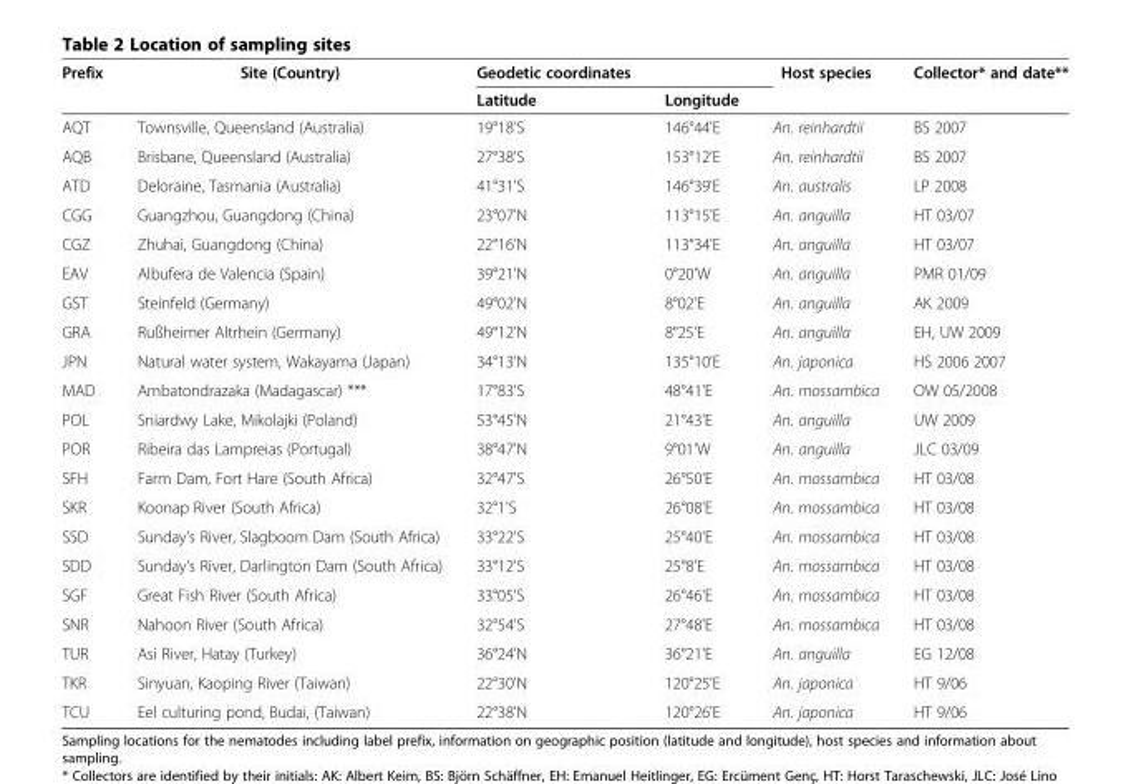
<table><thead><tr><td>Prefix</td><td>Site (Country)</td><td>Geodetic coordinates</td><td></td><td>Host species</td><td>Collector* and date**</td></tr></thead><tbody><tr><td></td><td></td><td>Latitude</td><td>Longitude</td><td></td><td></td></tr><tr><td>AQT</td><td>Townsville, Queensland (Australia)</td><td>19°18&#x27;S</td><td>146°44&#x27;E</td><td>An. reinhardtii</td><td>BS 2007</td></tr><tr><td>AQB</td><td>Brisbane, Queensland (Australia)</td><td>27°38&#x27;S</td><td>153°12&#x27;E</td><td>An. reinhardtii</td><td>BS 2007</td></tr><tr><td>ATD</td><td>Deloraine, Tasmania (Australia)</td><td>41°31&#x27;S</td><td>146°39&#x27;E</td><td>An. australis</td><td>LP 2008</td></tr><tr><td>CGG</td><td>Guangzhou, Guangdong (China)</td><td>23°07&#x27;N</td><td>113°15&#x27;E</td><td>An. anguilla</td><td>HT 03/07</td></tr><tr><td>CGZ</td><td>Zhuhai, Guangdong (China)</td><td>22°16&#x27;N</td><td>113°34&#x27;E</td><td>An. anguilla</td><td>HT 03/07</td></tr><tr><td>EAV</td><td>Albufera de Valencia (Spain)</td><td>39°21&#x27;N</td><td>0°20&#x27;W</td><td>An. anguilla</td><td>PMR 01/09</td></tr><tr><td>GST</td><td>Steinfeld (Germany)</td><td>49°02&#x27;N</td><td>8°02&#x27;E</td><td>An. anguilla</td><td>AK 2009</td></tr><tr><td>GRA</td><td>Rußheimer Altrhein (Germany)</td><td>49°12&#x27;N</td><td>8°25&#x27;E</td><td>An. anguilla</td><td>EH, UW 2009</td></tr><tr><td>JPN</td><td>Natural water system, Wakayama (Japan)</td><td>34°13&#x27;N</td><td>135°10&#x27;E</td><td>An. japonica</td><td>HS 2006 2007</td></tr><tr><td>MAD</td><td>Ambatondrazaka (Madagascar) ***</td><td>17°83&#x27;S</td><td>48°41&#x27;E</td><td>An. mossambica</td><td>OW 05/2008</td></tr><tr><td>POL</td><td>Sniardwy Lake, Mikolajki (Poland)</td><td>53°45&#x27;N</td><td>21°43&#x27;E</td><td>An. anguilla</td><td>UW 2009</td></tr><tr><td>POR</td><td>Ribeira das Lampreias (Portugal)</td><td>38°47&#x27;N</td><td>9°01&#x27;W</td><td>An. anguilla</td><td>JLC 03/09</td></tr><tr><td>SFH</td><td>Farm Dam, Fort Hare (South Africa)</td><td>32°47&#x27;S</td><td>26°50&#x27;E</td><td>An. mossambica</td><td>HT 03/08</td></tr><tr><td>SKR</td><td>Koonap River (South Africa)</td><td>32°1&#x27;S</td><td>26°08&#x27;E</td><td>An. mossambica</td><td>HT 03/08</td></tr><tr><td>SSD</td><td>Sunday’s River, Slagboom Dam (South Africa)</td><td>33°22&#x27;S</td><td>25°40&#x27;E</td><td>An. mossambica</td><td>HT 03/08</td></tr><tr><td>SDD</td><td>Sunday’s River, Darlington Dam (South Africa)</td><td>33°12&#x27;S</td><td>25°8&#x27;E</td><td>An. mossambica</td><td>HT 03/08</td></tr><tr><td>SGF</td><td>Great Fish River (South Africa)</td><td>33°05&#x27;S</td><td>26°46&#x27;E</td><td>An. mossambica</td><td>HT 03/08</td></tr><tr><td>SNR</td><td>Nahoon River (South Africa)</td><td>32°54&#x27;S</td><td>27°48&#x27;E</td><td>An. mossambica</td><td>HT 03/08</td></tr><tr><td>TUR</td><td>Asi River, Hatay (Turkey)</td><td>36°24&#x27;N</td><td>36°21&#x27;E</td><td>An. anguilla</td><td>EG 12/08</td></tr><tr><td>TKR</td><td>Sinyuan, Kaoping River (Taiwan)</td><td>22°30&#x27;N</td><td>120°25&#x27;E</td><td>An. japonica</td><td>HT 9/06</td></tr><tr><td>TCU</td><td>Eel culturing pond, Budai, (Taiwan)</td><td>22°38&#x27;N</td><td>120°26&#x27;E</td><td>An. japonica</td><td>HT 9/06</td></tr></tbody></table>